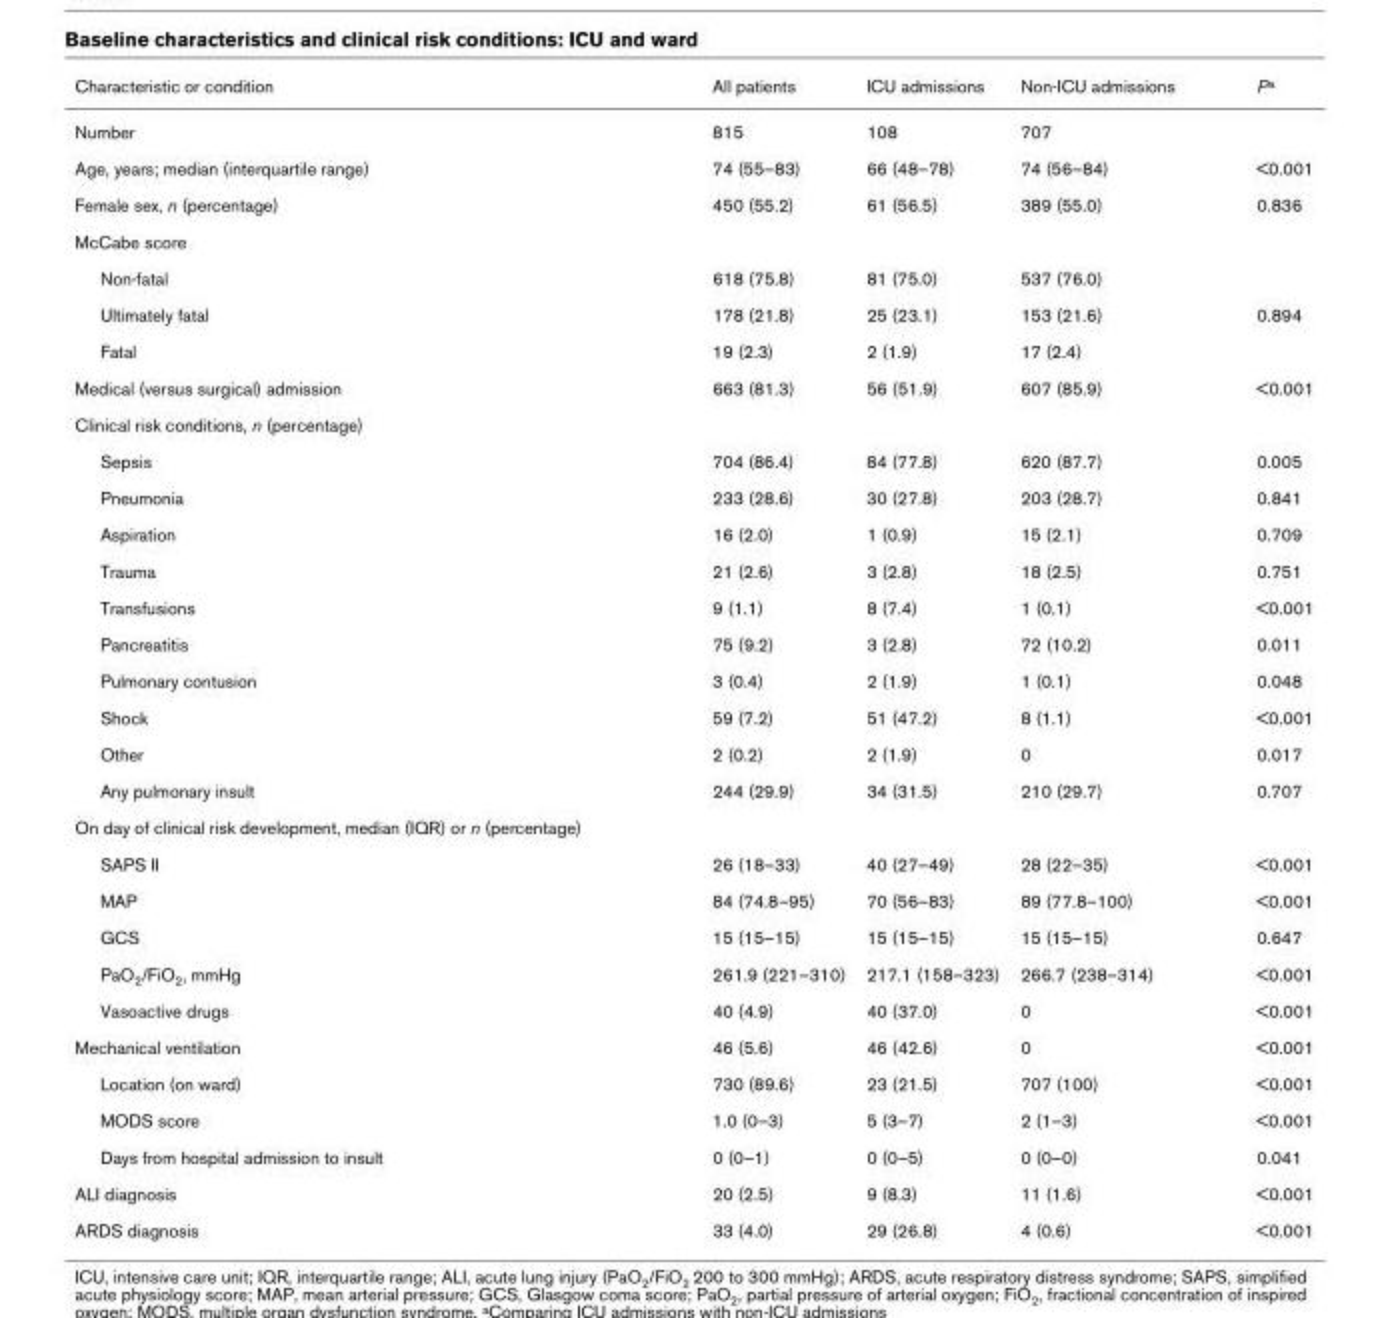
<table><thead><tr><td>Characteristic or condition</td><td>All patients</td><td>ICU admissions</td><td>Non-ICU admissions</td><td>P<sup>a</sup></td></tr></thead><tbody><tr><td>Number</td><td>815</td><td>108</td><td>707</td><td></td></tr><tr><td>Age, years; median (interquartile range)</td><td>74 (55–83)</td><td>66 (48–78)</td><td>74 (56–84)</td><td>&lt;0.001</td></tr><tr><td>Female sex, n (percentage)</td><td>450 (55.2)</td><td>61 (56.5)</td><td>389 (55.0)</td><td>0.836</td></tr><tr><td colspan="5">McCabe score</td></tr><tr><td>Non-fatal</td><td>618 (75.8)</td><td>81 (75.0)</td><td>537 (76.0)</td><td></td></tr><tr><td>Ultimately fatal</td><td>178 (21.8)</td><td>25 (23.1)</td><td>153 (21.6)</td><td>0.894</td></tr><tr><td>Fatal</td><td>19 (2.3)</td><td>2 (1.9)</td><td>17 (2.4)</td><td></td></tr><tr><td>Medical (versus surgical) admission</td><td>663 (81.3)</td><td>56 (51.9)</td><td>607 (85.9)</td><td>&lt;0.001</td></tr><tr><td colspan="5">Clinical risk conditions, n (percentage)</td></tr><tr><td>Sepsis</td><td>704 (86.4)</td><td>84 (77.8)</td><td>620 (87.7)</td><td>0.005</td></tr><tr><td>Pneumonia</td><td>233 (28.6)</td><td>30 (27.8)</td><td>203 (28.7)</td><td>0.841</td></tr><tr><td>Aspiration</td><td>16 (2.0)</td><td>1 (0.9)</td><td>15 (2.1)</td><td>0.709</td></tr><tr><td>Trauma</td><td>21 (2.6)</td><td>3 (2.8)</td><td>18 (2.5)</td><td>0.751</td></tr><tr><td>Transfusions</td><td>9 (1.1)</td><td>8 (7.4)</td><td>1 (0.1)</td><td>&lt;0.001</td></tr><tr><td>Pancreatitis</td><td>75 (9.2)</td><td>3 (2.8)</td><td>72 (10.2)</td><td>0.011</td></tr><tr><td>Pulmonary contusion</td><td>3 (0.4)</td><td>2 (1.9)</td><td>1 (0.1)</td><td>0.048</td></tr><tr><td>Shock</td><td>59 (7.2)</td><td>51 (47.2)</td><td>8 (1.1)</td><td>&lt;0.001</td></tr><tr><td>Other</td><td>2 (0.2)</td><td>2 (1.9)</td><td>0</td><td>0.017</td></tr><tr><td>Any pulmonary insult</td><td>244 (29.9)</td><td>34 (31.5)</td><td>210 (29.7)</td><td>0.707</td></tr><tr><td colspan="5">On day of clinical risk development, median (IQR) or n (percentage)</td></tr><tr><td>SAPS II</td><td>26 (18–33)</td><td>40 (27–49)</td><td>28 (22–35)</td><td>&lt;0.001</td></tr><tr><td>MAP</td><td>84 (74.8–95)</td><td>70 (56–83)</td><td>89 (77.8–100)</td><td>&lt;0.001</td></tr><tr><td>GCS</td><td>15 (15–15)</td><td>15 (15–15)</td><td>15 (15–15)</td><td>0.647</td></tr><tr><td>PaO<sub>2</sub>/FiO<sub>2</sub>, mmHg</td><td>261.9 (221–310)</td><td>217.1 (158–323)</td><td>266.7 (238–314)</td><td>&lt;0.001</td></tr><tr><td>Vasoactive drugs</td><td>40 (4.9)</td><td>40 (37.0)</td><td>0</td><td>&lt;0.001</td></tr><tr><td>Mechanical ventilation</td><td>46 (5.6)</td><td>46 (42.6)</td><td>0</td><td>&lt;0.001</td></tr><tr><td>Location (on ward)</td><td>730 (89.6)</td><td>23 (21.5)</td><td>707 (100)</td><td>&lt;0.001</td></tr><tr><td>MODS score</td><td>1.0 (0–3)</td><td>5 (3–7)</td><td>2 (1–3)</td><td>&lt;0.001</td></tr><tr><td>Days from hospital admission to insult</td><td>0 (0–1)</td><td>0 (0–5)</td><td>0 (0–0)</td><td>0.041</td></tr><tr><td>ALI diagnosis</td><td>20 (2.5)</td><td>9 (8.3)</td><td>11 (1.6)</td><td>&lt;0.001</td></tr><tr><td>ARDS diagnosis</td><td>33 (4.0)</td><td>29 (26.8)</td><td>4 (0.6)</td><td>&lt;0.001</td></tr></tbody></table>